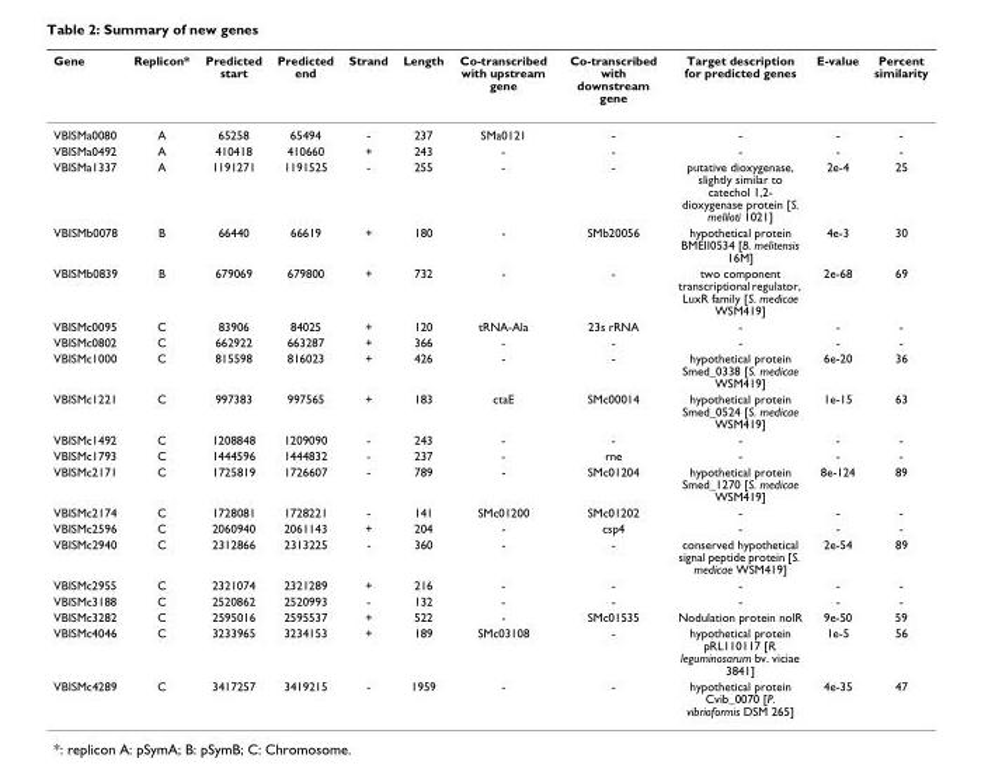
<table><thead><tr><td>Gene</td><td>Replicon*</td><td>Predicted start</td><td>Predicted end</td><td>Strand</td><td>Length</td><td>Co-transcribed with upstream gene</td><td>Co-transcribed with downstream gene</td><td>Target description for predicted genes</td><td>E-value</td><td>Percent similarity</td></tr></thead><tbody><tr><td>VBISMa0080</td><td>A</td><td>65258</td><td>65494</td><td>-</td><td>237</td><td>SMa0121</td><td>-</td><td>-</td><td>-</td><td>-</td></tr><tr><td>VBISMa0492</td><td>A</td><td>410418</td><td>410660</td><td>+</td><td>243</td><td>-</td><td>-</td><td>-</td><td>-</td><td>-</td></tr><tr><td>VBISMa1337</td><td>A</td><td>1191271</td><td>1191525</td><td>-</td><td>255</td><td>-</td><td>-</td><td>putative dioxygenase, slightly similar to catechol 1,2- dioxygenase protein [S. meliloti 1021]</td><td>2e-4</td><td>25</td></tr><tr><td>VBISMb0078</td><td>B</td><td>66440</td><td>66619</td><td>+</td><td>180</td><td>-</td><td>SMb20056</td><td>hypothetical protein BMEII0534 [B. melitensis 16M]</td><td>4e-3</td><td>30</td></tr><tr><td>VBISMb0839</td><td>B</td><td>679069</td><td>679800</td><td>+</td><td>732</td><td>-</td><td>-</td><td>two component transcriptional regulator, LuxR family [S. medicae WSM419]</td><td>2e-68</td><td>69</td></tr><tr><td>VBISMc0095</td><td>C</td><td>83906</td><td>84025</td><td>+</td><td>120</td><td>tRNA-Ala</td><td>23s rRNA</td><td>-</td><td>-</td><td>-</td></tr><tr><td>VBISMc0802</td><td>C</td><td>662922</td><td>663287</td><td>+</td><td>366</td><td>-</td><td>-</td><td>-</td><td>-</td><td>-</td></tr><tr><td>VBISMc1000</td><td>C</td><td>815598</td><td>816023</td><td>+</td><td>426</td><td>-</td><td>-</td><td>hypothetical protein Smed_0338 [S. medicae WSM419]</td><td>6e-20</td><td>36</td></tr><tr><td>VBISMc1221</td><td>C</td><td>997383</td><td>997565</td><td>+</td><td>183</td><td>ctaE</td><td>SMc00014</td><td>hypothetical protein Smed_0524 [S. medicae WSM419]</td><td>1e-15</td><td>63</td></tr><tr><td>VBISMc1492</td><td>C</td><td>1208848</td><td>1209090</td><td>-</td><td>243</td><td>-</td><td>-</td><td>-</td><td>-</td><td>-</td></tr><tr><td>VBISMc1793</td><td>C</td><td>1444596</td><td>1444832</td><td>-</td><td>237</td><td>-</td><td>rne</td><td>-</td><td>-</td><td>-</td></tr><tr><td>VBISMc2171</td><td>C</td><td>1725819</td><td>1726607</td><td>-</td><td>789</td><td>-</td><td>SMc01204</td><td>hypothetical protein Smed_1270 [S. medicae WSM419]</td><td>8e-124</td><td>89</td></tr><tr><td>VBISMc2174</td><td>C</td><td>1728081</td><td>1728221</td><td>-</td><td>141</td><td>SMc01200</td><td>SMc01202</td><td>-</td><td>-</td><td>-</td></tr><tr><td>VBISMc2596</td><td>C</td><td>2060940</td><td>2061143</td><td>+</td><td>204</td><td>-</td><td>csp4</td><td>-</td><td>-</td><td>-</td></tr><tr><td>VBISMc2940</td><td>C</td><td>2312866</td><td>2313225</td><td>-</td><td>360</td><td>-</td><td>-</td><td>conserved hypothetical signal peptide protein [S. medicae WSM419]</td><td>2e-54</td><td>89</td></tr><tr><td>VBISMc2955</td><td>C</td><td>2321074</td><td>2321289</td><td>+</td><td>216</td><td>-</td><td>-</td><td>-</td><td>-</td><td>-</td></tr><tr><td>VBISMc3188</td><td>C</td><td>2520862</td><td>2520993</td><td>-</td><td>132</td><td>-</td><td>-</td><td>-</td><td>-</td><td>-</td></tr><tr><td>VBISMc3282</td><td>C</td><td>2595016</td><td>2595537</td><td>+</td><td>522</td><td>-</td><td>SMc01535</td><td>Nodulation protein nolR</td><td>9e-50</td><td>59</td></tr><tr><td>VBISMc4046</td><td>C</td><td>3233965</td><td>3234153</td><td>+</td><td>189</td><td>SMc03108</td><td>-</td><td>hypothetical protein pRL110117 [R. leguminosarum bv. viciae 3841]</td><td>1e-5</td><td>56</td></tr><tr><td>VBISMc4289</td><td>C</td><td>3417257</td><td>3419215</td><td>-</td><td>1959</td><td>-</td><td>-</td><td>hypothetical protein Cvib_0070 [P. vibrioformis DSM 265]</td><td>4e-35</td><td>47</td></tr></tbody></table>